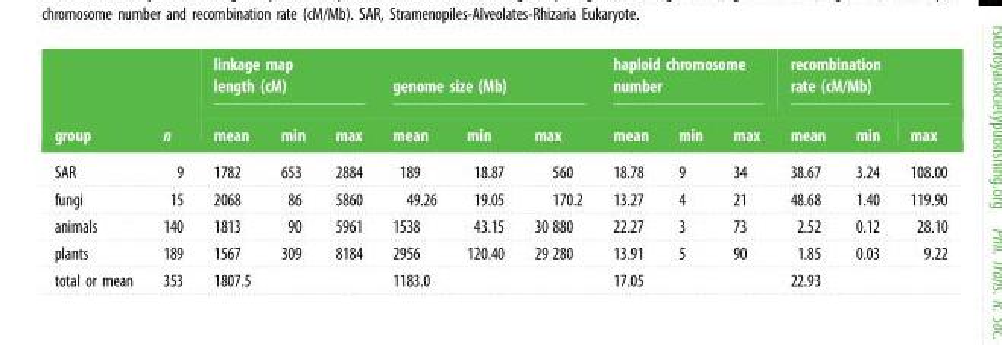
<table><thead><tr><td rowspan="2">group</td><td rowspan="2">n</td><td colspan="3">linkage map length (cM)</td><td colspan="3">genome size (Mb)</td><td colspan="3">haploid chromosome number</td><td colspan="3">recombination rate (cM/Mb)</td></tr><tr><td>mean</td><td>min</td><td>max</td><td>mean</td><td>min</td><td>max</td><td>mean</td><td>min</td><td>max</td><td>mean</td><td>min</td><td>max</td></tr></thead><tbody><tr><td>SAR</td><td>9</td><td>1782</td><td>653</td><td>2884</td><td>189</td><td>18.87</td><td>560</td><td>18.78</td><td>9</td><td>34</td><td>38.67</td><td>3.24</td><td>108.00</td></tr><tr><td>fungi</td><td>15</td><td>2068</td><td>86</td><td>5860</td><td>49.26</td><td>19.05</td><td>170.2</td><td>13.27</td><td>4</td><td>21</td><td>48.68</td><td>1.40</td><td>119.90</td></tr><tr><td>animals</td><td>140</td><td>1813</td><td>90</td><td>5961</td><td>1538</td><td>43.15</td><td>30 880</td><td>22.27</td><td>3</td><td>73</td><td>2.52</td><td>0.12</td><td>28.10</td></tr><tr><td>plants</td><td>189</td><td>1567</td><td>309</td><td>8184</td><td>2956</td><td>120.40</td><td>29 280</td><td>13.91</td><td>5</td><td>90</td><td>1.85</td><td>0.03</td><td>9.22</td></tr><tr><td>total or mean</td><td>353</td><td>1807.5</td><td></td><td></td><td>1183.0</td><td></td><td></td><td>17.05</td><td></td><td></td><td>22.93</td><td></td><td></td></tr></tbody></table>